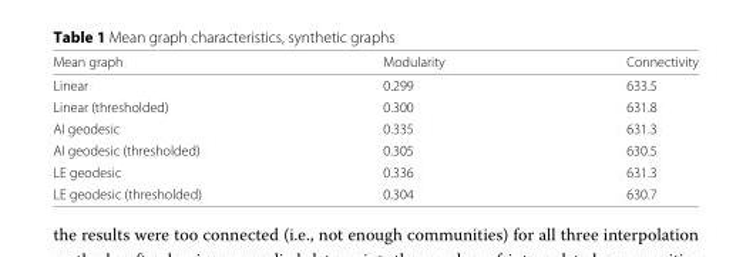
<table><thead><tr><td>Mean graph</td><td>Modularity</td><td>Connectivity</td></tr></thead><tbody><tr><td>Linear</td><td>0.299</td><td>633.5</td></tr><tr><td>Linear (thresholded)</td><td>0.300</td><td>631.8</td></tr><tr><td>AI geodesic</td><td>0.335</td><td>631.3</td></tr><tr><td>AI geodesic (thresholded)</td><td>0.305</td><td>630.5</td></tr><tr><td>LE geodesic</td><td>0.336</td><td>631.3</td></tr><tr><td>LE geodesic (thresholded)</td><td>0.304</td><td>630.7</td></tr></tbody></table>